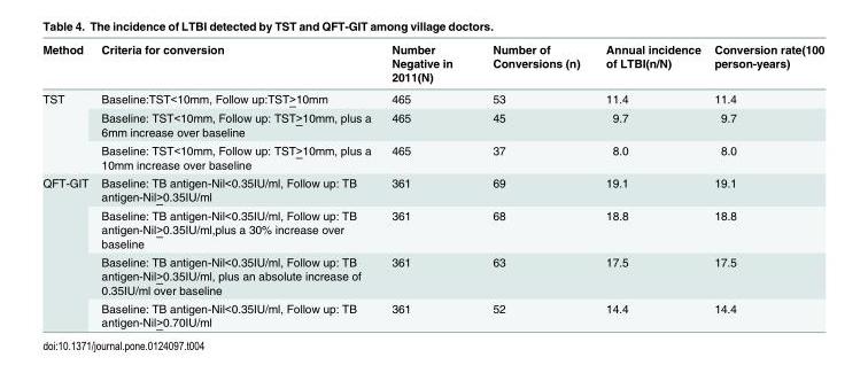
<table><thead><tr><td>Method</td><td>Criteria for conversion</td><td>Number Negative in 2011(N)</td><td>Number of Conversions (n)</td><td>Annual incidence of LTBI(n/N)</td><td>Conversion rate(100 person-years)</td></tr></thead><tbody><tr><td rowspan="3">TST</td><td>Baseline:TST&lt;10mm, Follow up:TST&gt;10mm</td><td>465</td><td>53</td><td>11.4</td><td>11.4</td></tr><tr><td>Baseline: TST&lt;10mm, Follow up: TST&gt;10mm, plus a 6mm increase over baseline</td><td>465</td><td>45</td><td>9.7</td><td>9.7</td></tr><tr><td>Baseline: TST&lt;10mm, Follow up: TST&gt;10mm, plus a 10mm increase over baseline</td><td>465</td><td>37</td><td>8.0</td><td>8.0</td></tr><tr><td rowspan="4">QFT-GIT</td><td>Baseline: TB antigen-Nil&lt;0.35IU/ml, Follow up: TB antigen-Nil&gt;0.35IU/ml</td><td>361</td><td>69</td><td>19.1</td><td>19.1</td></tr><tr><td>Baseline: TB antigen-Nil&lt;0.35IU/ml, Follow up: TB antigen-Nil&gt;0.35IU/ml,plus a 30% increase over baseline</td><td>361</td><td>68</td><td>18.8</td><td>18.8</td></tr><tr><td>Baseline: TB antigen-Nil&lt;0.35IU/ml, Follow up: TB antigen-Nil&gt;0.35IU/ml, plus an absolute increase of 0.35IU/ml over baseline</td><td>361</td><td>63</td><td>17.5</td><td>17.5</td></tr><tr><td>Baseline: TB antigen-Nil&lt;0.35IU/ml, Follow up: TB antigen-Nil&gt;0.70IU/ml</td><td>361</td><td>52</td><td>14.4</td><td>14.4</td></tr></tbody></table>